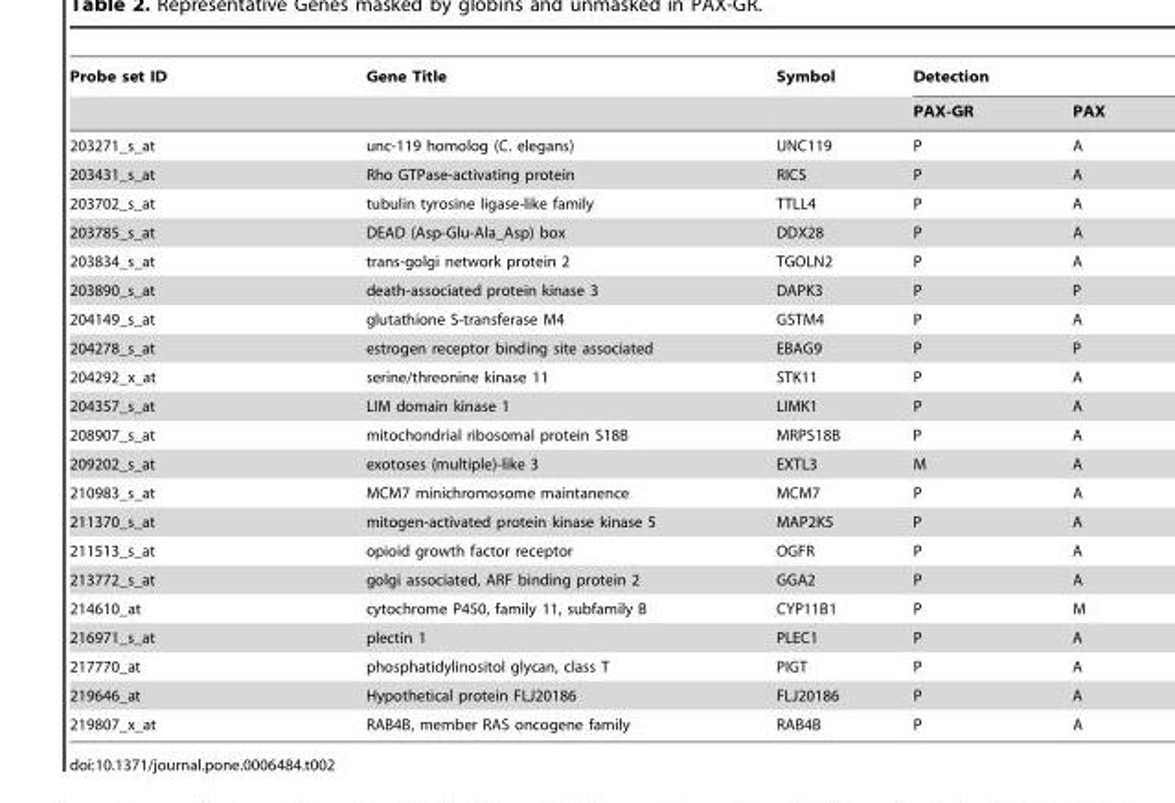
<table><thead><tr><td rowspan="2">Probe set ID</td><td rowspan="2">Gene Title</td><td rowspan="2">Symbol</td><td colspan="2">Detection</td></tr><tr><td>PAX-GR</td><td>PAX</td></tr></thead><tbody><tr><td>203271_s_at</td><td>unc-119 homolog (C. elegans)</td><td>UNC119</td><td>P</td><td>A</td></tr><tr><td>203431_s_at</td><td>Rho GTPase-activating protein</td><td>RICS</td><td>P</td><td>A</td></tr><tr><td>203702_s_at</td><td>tubulin tyrosine ligase-like family</td><td>TTLL4</td><td>P</td><td>A</td></tr><tr><td>203785_s_at</td><td>DEAD (Asp-Glu-Ala_Asp) box</td><td>DDX28</td><td>P</td><td>A</td></tr><tr><td>203834_s_at</td><td>trans-golgi network protein 2</td><td>TGOLN2</td><td>P</td><td>A</td></tr><tr><td>203890_s_at</td><td>death-associated protein kinase 3</td><td>DAPK3</td><td>P</td><td>P</td></tr><tr><td>204149_s_at</td><td>glutathione S-transferase M4</td><td>GSTM4</td><td>P</td><td>A</td></tr><tr><td>204278_s_at</td><td>estrogen receptor binding site associated</td><td>EBAG9</td><td>P</td><td>P</td></tr><tr><td>204292_x_at</td><td>serine/threonine kinase 11</td><td>STK11</td><td>P</td><td>A</td></tr><tr><td>204357_s_at</td><td>LIM domain kinase 1</td><td>LIMK1</td><td>P</td><td>A</td></tr><tr><td>208907_s_at</td><td>mitochondrial ribosomal protein S18B</td><td>MRPS18B</td><td>P</td><td>A</td></tr><tr><td>209202_s_at</td><td>exotoses (multiple)-like 3</td><td>EXTL3</td><td>M</td><td>A</td></tr><tr><td>210983_s_at</td><td>MCM7 minichromosome maintanence</td><td>MCM7</td><td>P</td><td>A</td></tr><tr><td>211370_s_at</td><td>mitogen-activated protein kinase kinase 5</td><td>MAP2K5</td><td>P</td><td>A</td></tr><tr><td>211513_s_at</td><td>opioid growth factor receptor</td><td>OGFR</td><td>P</td><td>A</td></tr><tr><td>213772_s_at</td><td>golgi associated, ARF binding protein 2</td><td>GGA2</td><td>P</td><td>A</td></tr><tr><td>214610_at</td><td>cytochrome P450, family 11, subfamily B</td><td>CYP11B1</td><td>P</td><td>M</td></tr><tr><td>216971_s_at</td><td>plectin 1</td><td>PLEC1</td><td>P</td><td>A</td></tr><tr><td>217770_at</td><td>phosphatidylinositol glycan, class T</td><td>PIGT</td><td>P</td><td>A</td></tr><tr><td>219646_at</td><td>Hypothetical protein FLJ20186</td><td>FLJ20186</td><td>P</td><td>A</td></tr><tr><td>219807_x_at</td><td>RAB4B, member RAS oncogene family</td><td>RAB4B</td><td>P</td><td>A</td></tr></tbody></table>